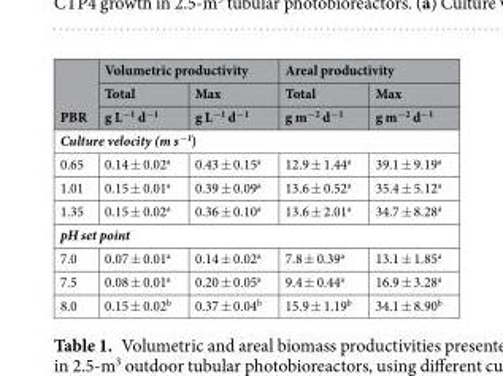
<table><thead><tr><td rowspan="3">PBR</td><td colspan="2">Volumetric productivity</td><td colspan="2">Areal productivity</td></tr><tr><td rowspan="2">Total g L<sup>−1</sup> d<sup>−1</sup></td><td rowspan="2">Max g L<sup>−1</sup> d<sup>−1</sup></td><td rowspan="2">Total g m<sup>−2</sup> d<sup>−1</sup></td><td rowspan="2">Max g m<sup>−2</sup> d<sup>−1</sup></td></tr><tr></tr></thead><tbody><tr><td colspan="5">Culture velocity (m s<sup>−1</sup>)</td></tr><tr><td>0.65</td><td>0.14 ± 0.02<sup>a</sup></td><td>0.43 ± 0.15<sup>a</sup></td><td>12.9 ± 1.44<sup>a</sup></td><td>39.1 ± 9.19<sup>a</sup></td></tr><tr><td>1.01</td><td>0.15 ± 0.01<sup>a</sup></td><td>0.39 ± 0.09<sup>a</sup></td><td>13.6 ± 0.52<sup>a</sup></td><td>35.4 ± 5.12<sup>a</sup></td></tr><tr><td>1.35</td><td>0.15 ± 0.02<sup>a</sup></td><td>0.36 ± 0.10<sup>a</sup></td><td>13.6 ± 2.01<sup>a</sup></td><td>34.7 ± 8.28<sup>a</sup></td></tr><tr><td colspan="5">pH set point</td></tr><tr><td>7.0</td><td>0.07 ± 0.01<sup>a</sup></td><td>0.14 ± 0.02<sup>a</sup></td><td>7.8 ± 0.39<sup>a</sup></td><td>13.1 ± 1.85<sup>a</sup></td></tr><tr><td>7.5</td><td>0.08 ± 0.01<sup>a</sup></td><td>0.20 ± 0.05<sup>a</sup></td><td>9.4 ± 0.44<sup>a</sup></td><td>16.9 ± 3.28<sup>a</sup></td></tr><tr><td>8.0</td><td>0.15 ± 0.02<sup>b</sup></td><td>0.37 ± 0.04<sup>b</sup></td><td>15.9 ± 1.19<sup>b</sup></td><td>34.1 ± 8.90<sup>b</sup></td></tr></tbody></table>